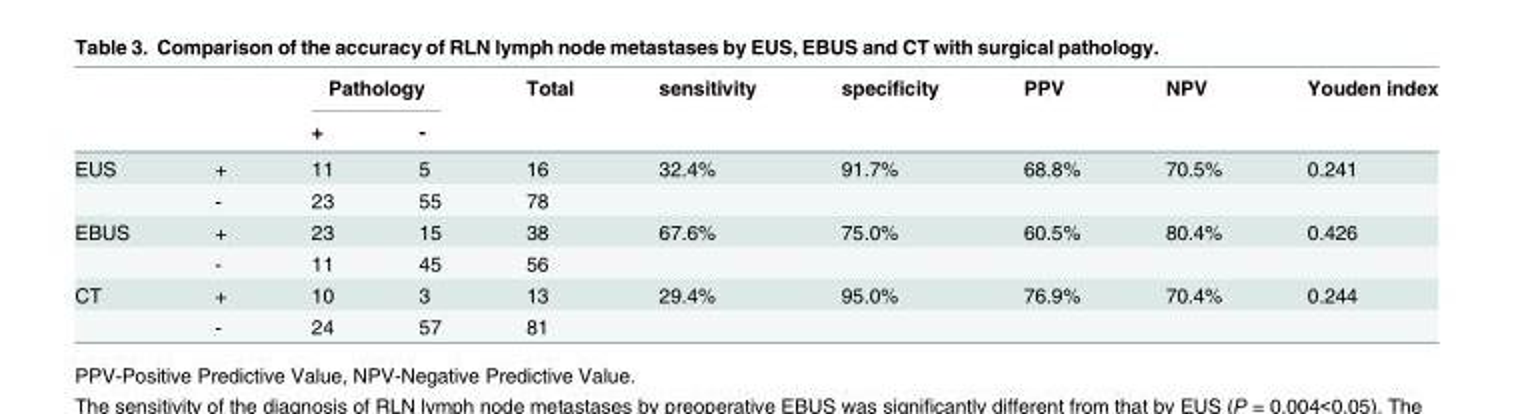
<table><thead><tr><td rowspan="2"></td><td rowspan="2"></td><td colspan="2">Pathology</td><td rowspan="2">Total</td><td rowspan="2">sensitivity</td><td rowspan="2">specificity</td><td rowspan="2">PPV</td><td rowspan="2">NPV</td><td rowspan="2">Youden index</td></tr><tr><td>+</td><td>-</td></tr></thead><tbody><tr><td rowspan="2">EUS</td><td>+</td><td>11</td><td>5</td><td>16</td><td>32.4%</td><td>91.7%</td><td>68.8%</td><td>70.5%</td><td>0.241</td></tr><tr><td>-</td><td>23</td><td>55</td><td>78</td><td></td><td></td><td></td><td></td><td></td></tr><tr><td rowspan="2">EBUS</td><td>+</td><td>23</td><td>15</td><td>38</td><td>67.6%</td><td>75.0%</td><td>60.5%</td><td>80.4%</td><td>0.426</td></tr><tr><td>-</td><td>11</td><td>45</td><td>56</td><td></td><td></td><td></td><td></td><td></td></tr><tr><td rowspan="2">CT</td><td>+</td><td>10</td><td>3</td><td>13</td><td>29.4%</td><td>95.0%</td><td>76.9%</td><td>70.4%</td><td>0.244</td></tr><tr><td>-</td><td>24</td><td>57</td><td>81</td><td></td><td></td><td></td><td></td><td></td></tr></tbody></table>